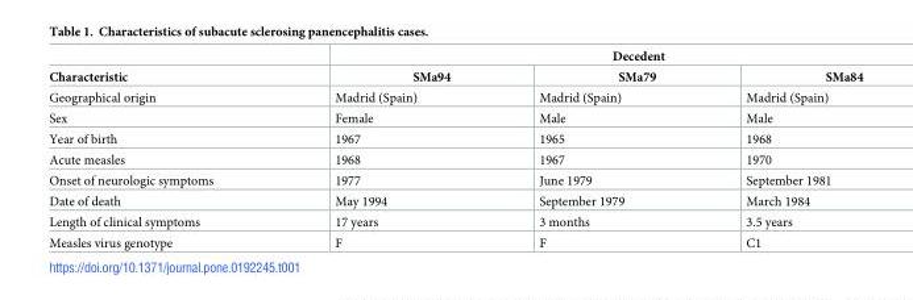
<table><thead><tr><td rowspan="2">Characteristic</td><td colspan="3">Decedent</td></tr><tr><td>SMa94</td><td>SMa79</td><td>SMa84</td></tr></thead><tbody><tr><td>Geographical origin</td><td>Madrid (Spain)</td><td>Madrid (Spain)</td><td>Madrid (Spain)</td></tr><tr><td>Sex</td><td>Female</td><td>Male</td><td>Male</td></tr><tr><td>Year of birth</td><td>1967</td><td>1965</td><td>1968</td></tr><tr><td>Acute measles</td><td>1968</td><td>1967</td><td>1970</td></tr><tr><td>Onset of neurologic symptoms</td><td>1977</td><td>June 1979</td><td>September 1981</td></tr><tr><td>Date of death</td><td>May 1994</td><td>September 1979</td><td>March 1984</td></tr><tr><td>Length of clinical symptoms</td><td>17 years</td><td>3 months</td><td>3.5 years</td></tr><tr><td>Measles virus genotype</td><td>F</td><td>F</td><td>C1</td></tr></tbody></table>